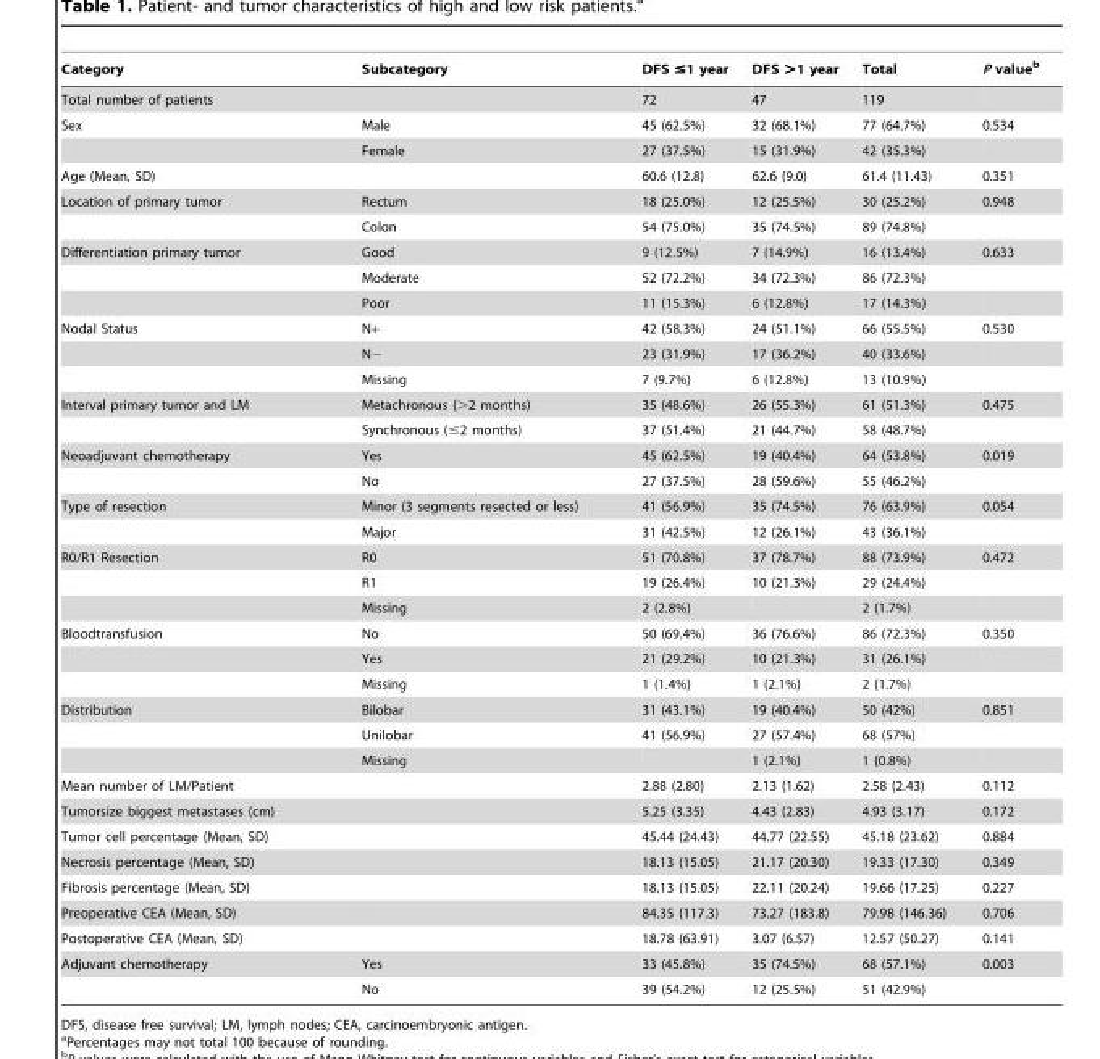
<table><thead><tr><td>Category</td><td>Subcategory</td><td>DFS ≤1 year</td><td>DFS &gt;1 year</td><td>Total</td><td>P value<sup>b</sup></td></tr></thead><tbody><tr><td>Total number of patients</td><td></td><td>72</td><td>47</td><td>119</td><td></td></tr><tr><td rowspan="2">Sex</td><td>Male</td><td>45 (62.5%)</td><td>32 (68.1%)</td><td>77 (64.7%)</td><td>0.534</td></tr><tr><td>Female</td><td>27 (37.5%)</td><td>15 (31.9%)</td><td>42 (35.3%)</td><td></td></tr><tr><td>Age (Mean, SD)</td><td></td><td>60.6 (12.8)</td><td>62.6 (9.0)</td><td>61.4 (11.43)</td><td>0.351</td></tr><tr><td rowspan="2">Location of primary tumor</td><td>Rectum</td><td>18 (25.0%)</td><td>12 (25.5%)</td><td>30 (25.2%)</td><td>0.948</td></tr><tr><td>Colon</td><td>54 (75.0%)</td><td>35 (74.5%)</td><td>89 (74.8%)</td><td></td></tr><tr><td rowspan="3">Differentiation primary tumor</td><td>Good</td><td>9 (12.5%)</td><td>7 (14.9%)</td><td>16 (13.4%)</td><td>0.633</td></tr><tr><td>Moderate</td><td>52 (72.2%)</td><td>34 (72.3%)</td><td>86 (72.3%)</td><td></td></tr><tr><td>Poor</td><td>11 (15.3%)</td><td>6 (12.8%)</td><td>17 (14.3%)</td><td></td></tr><tr><td rowspan="3">Nodal Status</td><td>N+</td><td>42 (58.3%)</td><td>24 (51.1%)</td><td>66 (55.5%)</td><td>0.530</td></tr><tr><td>N−</td><td>23 (31.9%)</td><td>17 (36.2%)</td><td>40 (33.6%)</td><td></td></tr><tr><td>Missing</td><td>7 (9.7%)</td><td>6 (12.8%)</td><td>13 (10.9%)</td><td></td></tr><tr><td rowspan="2">Interval primary tumor and LM</td><td>Metachronous (&gt;2 months)</td><td>35 (48.6%)</td><td>26 (55.3%)</td><td>61 (51.3%)</td><td>0.475</td></tr><tr><td>Synchronous (≤2 months)</td><td>37 (51.4%)</td><td>21 (44.7%)</td><td>58 (48.7%)</td><td></td></tr><tr><td rowspan="2">Neoadjuvant chemotherapy</td><td>Yes</td><td>45 (62.5%)</td><td>19 (40.4%)</td><td>64 (53.8%)</td><td>0.019</td></tr><tr><td>No</td><td>27 (37.5%)</td><td>28 (59.6%)</td><td>55 (46.2%)</td><td></td></tr><tr><td rowspan="2">Type of resection</td><td>Minor (3 segments resected or less)</td><td>41 (56.9%)</td><td>35 (74.5%)</td><td>76 (63.9%)</td><td>0.054</td></tr><tr><td>Major</td><td>31 (42.5%)</td><td>12 (26.1%)</td><td>43 (36.1%)</td><td></td></tr><tr><td rowspan="3">R0/R1 Resection</td><td>R0</td><td>51 (70.8%)</td><td>37 (78.7%)</td><td>88 (73.9%)</td><td>0.472</td></tr><tr><td>R1</td><td>19 (26.4%)</td><td>10 (21.3%)</td><td>29 (24.4%)</td><td></td></tr><tr><td>Missing</td><td>2 (2.8%)</td><td></td><td>2 (1.7%)</td><td></td></tr><tr><td rowspan="3">Bloodtransfusion</td><td>No</td><td>50 (69.4%)</td><td>36 (76.6%)</td><td>86 (72.3%)</td><td>0.350</td></tr><tr><td>Yes</td><td>21 (29.2%)</td><td>10 (21.3%)</td><td>31 (26.1%)</td><td></td></tr><tr><td>Missing</td><td>1 (1.4%)</td><td>1 (2.1%)</td><td>2 (1.7%)</td><td></td></tr><tr><td rowspan="3">Distribution</td><td>Bilobar</td><td>31 (43.1%)</td><td>19 (40.4%)</td><td>50 (42%)</td><td>0.851</td></tr><tr><td>Unilobar</td><td>41 (56.9%)</td><td>27 (57.4%)</td><td>68 (57%)</td><td></td></tr><tr><td>Missing</td><td></td><td>1 (2.1%)</td><td>1 (0.8%)</td><td></td></tr><tr><td>Mean number of LM/Patient</td><td></td><td>2.88 (2.80)</td><td>2.13 (1.62)</td><td>2.58 (2.43)</td><td>0.112</td></tr><tr><td>Tumorsize biggest metastases (cm)</td><td></td><td>5.25 (3.35)</td><td>4.43 (2.83)</td><td>4.93 (3.17)</td><td>0.172</td></tr><tr><td>Tumor cell percentage (Mean, SD)</td><td></td><td>45.44 (24.43)</td><td>44.77 (22.55)</td><td>45.18 (23.62)</td><td>0.884</td></tr><tr><td>Necrosis percentage (Mean, SD)</td><td></td><td>18.13 (15.05)</td><td>21.17 (20.30)</td><td>19.33 (17.30)</td><td>0.349</td></tr><tr><td>Fibrosis percentage (Mean, SD)</td><td></td><td>18.13 (15.05)</td><td>22.11 (20.24)</td><td>19.66 (17.25)</td><td>0.227</td></tr><tr><td>Preoperative CEA (Mean, SD)</td><td></td><td>84.35 (117.3)</td><td>73.27 (183.8)</td><td>79.98 (146.36)</td><td>0.706</td></tr><tr><td>Postoperative CEA (Mean, SD)</td><td></td><td>18.78 (63.91)</td><td>3.07 (6.57)</td><td>12.57 (50.27)</td><td>0.141</td></tr><tr><td rowspan="2">Adjuvant chemotherapy</td><td>Yes</td><td>33 (45.8%)</td><td>35 (74.5%)</td><td>68 (57.1%)</td><td>0.003</td></tr><tr><td>No</td><td>39 (54.2%)</td><td>12 (25.5%)</td><td>51 (42.9%)</td><td></td></tr></tbody></table>